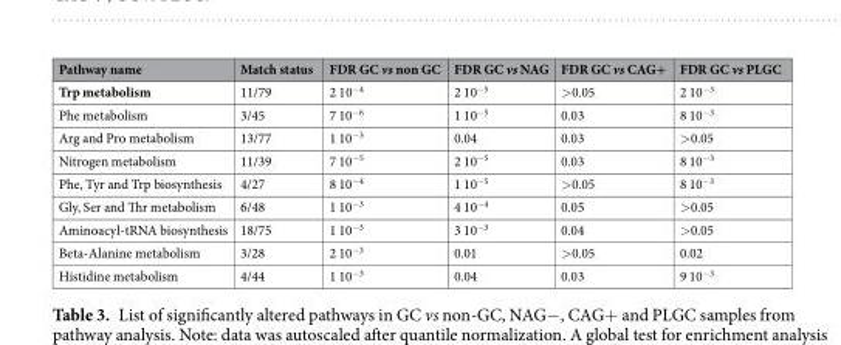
<table><thead><tr><td>Pathway name</td><td>Match status</td><td>FDR GC vs non GC</td><td>FDR GC vs NAG</td><td>FDR GC vs CAG+</td><td>FDR GC vs PLGC</td></tr></thead><tbody><tr><td>Trp metabolism</td><td>11/79</td><td>2 10<sup>−4</sup></td><td>2 10<sup>−5</sup></td><td>&gt;0.05</td><td>2 10<sup>−3</sup></td></tr><tr><td>Phe metabolism</td><td>3/45</td><td>7 10<sup>−6</sup></td><td>1 10<sup>−5</sup></td><td>0.03</td><td>8 10<sup>−3</sup></td></tr><tr><td>Arg and Pro metabolism</td><td>13/77</td><td>1 10<sup>−3</sup></td><td>0.04</td><td>0.03</td><td>&gt;0.05</td></tr><tr><td>Nitrogen metabolism</td><td>11/39</td><td>7 10<sup>−5</sup></td><td>2 10<sup>−5</sup></td><td>0.03</td><td>8 10<sup>−3</sup></td></tr><tr><td>Phe, Tyr and Trp biosynthesis</td><td>4/27</td><td>8 10<sup>−4</sup></td><td>1 10<sup>−5</sup></td><td>&gt;0.05</td><td>8 10<sup>−3</sup></td></tr><tr><td>Gly, Ser and Thr metabolism</td><td>6/48</td><td>1 10<sup>−3</sup></td><td>4 10<sup>−4</sup></td><td>0.05</td><td>&gt;0.05</td></tr><tr><td>Aminoacyl-tRNA biosynthesis</td><td>18/75</td><td>1 10<sup>−3</sup></td><td>3 10<sup>−3</sup></td><td>0.04</td><td>&gt;0.05</td></tr><tr><td>Beta-Alanine metabolism</td><td>3/28</td><td>2 10<sup>−3</sup></td><td>0.01</td><td>&gt;0.05</td><td>0.02</td></tr><tr><td>Histidine metabolism</td><td>4/44</td><td>1 10<sup>−3</sup></td><td>0.04</td><td>0.03</td><td>9 10<sup>−3</sup></td></tr></tbody></table>